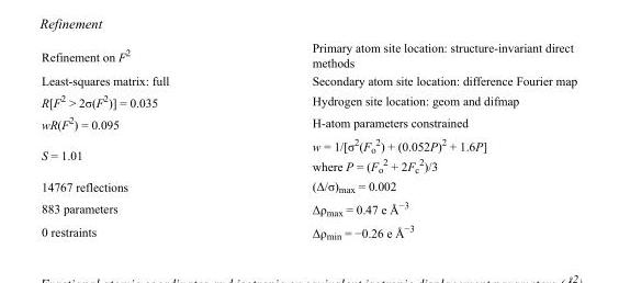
<table><tbody><tr><td>Refinement on F<sup>2</sup></td><td>Primary atom site location: structure-invariant direct methods</td></tr><tr><td>Least-squares matrix: full</td><td>Secondary atom site location: difference Fourier map</td></tr><tr><td>R[F<sup>2</sup> &gt; 2σ(F<sup>2</sup>)] = 0.035</td><td>Hydrogen site location: geom and difmap</td></tr><tr><td>wR(F<sup>2</sup>) = 0.095</td><td>H-atom parameters constrained</td></tr><tr><td>S = 1.01</td><td>w = 1/[σ<sup>2</sup>(F<sub>o</sub> <sup>2</sup>) + (0.052P)<sup>2</sup> + 1.6P] where P = (F<sub>o</sub> <sup>2</sup> + 2F<sub>c</sub> <sup>2</sup>)/3</td></tr><tr><td>14767 reflections</td><td>(Δ/σ)<sub>max</sub> = 0.002</td></tr><tr><td>883 parameters</td><td>Δρ<sub>max</sub> = 0.47 e Å<sup>−3</sup></td></tr><tr><td>0 restraints</td><td>Δρ<sub>min</sub> = −0.26 e Å<sup>−3</sup></td></tr></tbody></table>